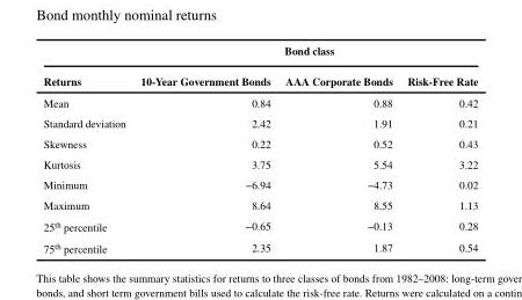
<table><thead><tr><td rowspan="2">Returns</td><td colspan="3">Bond class</td></tr><tr><td>10-Year Government Bonds</td><td>AAA Corporate Bonds</td><td>Risk-Free Rate</td></tr></thead><tbody><tr><td>Mean</td><td>0.84</td><td>0.88</td><td>0.42</td></tr><tr><td>Standard deviation</td><td>2.42</td><td>1.91</td><td>0.21</td></tr><tr><td>Skewness</td><td>0.22</td><td>0.52</td><td>0.43</td></tr><tr><td>Kurtosis</td><td>3.75</td><td>5.54</td><td>3.22</td></tr><tr><td>Minimum</td><td>−6.94</td><td>−4.73</td><td>0.02</td></tr><tr><td>Maximum</td><td>8.64</td><td>8.55</td><td>1.13</td></tr><tr><td>25<sup>th</sup> percentile</td><td>−0.65</td><td>−0.13</td><td>0.28</td></tr><tr><td>75<sup>th</sup> percentile</td><td>2.35</td><td>1.87</td><td>0.54</td></tr></tbody></table>